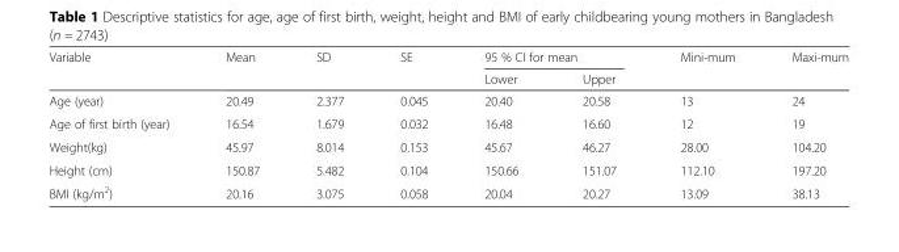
<table><thead><tr><td rowspan="2">Variable</td><td rowspan="2">Mean</td><td rowspan="2">SD</td><td rowspan="2">SE</td><td colspan="2">95 % CI for mean</td><td rowspan="2">Mini-mum</td><td rowspan="2">Maxi-mum</td></tr><tr><td>Lower</td><td>Upper</td></tr></thead><tbody><tr><td>Age (year)</td><td>20.49</td><td>2.377</td><td>0.045</td><td>20.40</td><td>20.58</td><td>13</td><td>24</td></tr><tr><td>Age of first birth (year)</td><td>16.54</td><td>1.679</td><td>0.032</td><td>16.48</td><td>16.60</td><td>12</td><td>19</td></tr><tr><td>Weight(kg)</td><td>45.97</td><td>8.014</td><td>0.153</td><td>45.67</td><td>46.27</td><td>28.00</td><td>104.20</td></tr><tr><td>Height (cm)</td><td>150.87</td><td>5.482</td><td>0.104</td><td>150.66</td><td>151.07</td><td>112.10</td><td>197.20</td></tr><tr><td>BMI (kg/m<sup>2</sup>)</td><td>20.16</td><td>3.075</td><td>0.058</td><td>20.04</td><td>20.27</td><td>13.09</td><td>38.13</td></tr></tbody></table>